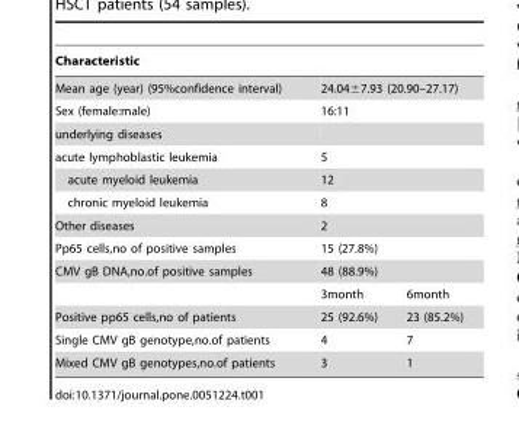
<table><thead><tr><td>Characteristic</td><td></td><td></td></tr></thead><tbody><tr><td>Mean age (year) (95%confidence interval)</td><td colspan="2">24.04±7.93 (20.90–27.17)</td></tr><tr><td>Sex (female:male)</td><td colspan="2">16:11</td></tr><tr><td colspan="3">underlying diseases</td></tr><tr><td>acute lymphoblastic leukemia</td><td colspan="2">5</td></tr><tr><td>acute myeloid leukemia</td><td colspan="2">12</td></tr><tr><td>chronic myeloid leukemia</td><td colspan="2">8</td></tr><tr><td>Other diseases</td><td colspan="2">2</td></tr><tr><td>Pp65 cells,no of positive samples</td><td colspan="2">15 (27.8%)</td></tr><tr><td rowspan="2">CMV gB DNA,no.of positive samples</td><td colspan="2">48 (88.9%)</td></tr><tr><td>3month</td><td>6month</td></tr><tr><td>Positive pp65 cells,no of patients</td><td>25 (92.6%)</td><td>23 (85.2%)</td></tr><tr><td>Single CMV gB genotype,no.of patients</td><td>4</td><td>7</td></tr><tr><td>Mixed CMV gB genotypes,no.of patients</td><td>3</td><td>1</td></tr></tbody></table>